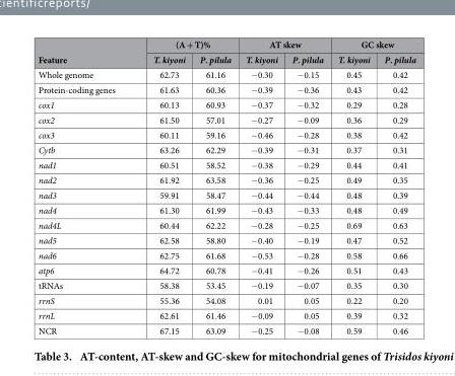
<table><thead><tr><td rowspan="2">Feature</td><td colspan="2">(A + T)%</td><td colspan="2">AT skew</td><td colspan="2">GC skew</td></tr><tr><td>T. kiyoni</td><td>P. pilula</td><td>T. kiyoni</td><td>P. pilula</td><td>T. kiyoni</td><td>P. pilula</td></tr></thead><tbody><tr><td>Whole genome</td><td>62.73</td><td>61.16</td><td>− 0.30</td><td>− 0.15</td><td>0.45</td><td>0.42</td></tr><tr><td>Protein-coding genes</td><td>61.63</td><td>60.36</td><td>− 0.39</td><td>− 0.36</td><td>0.43</td><td>0.42</td></tr><tr><td>cox1</td><td>60.13</td><td>60.93</td><td>− 0.37</td><td>− 0.32</td><td>0.29</td><td>0.28</td></tr><tr><td>cox2</td><td>61.50</td><td>57.01</td><td>− 0.27</td><td>− 0.09</td><td>0.36</td><td>0.29</td></tr><tr><td>cox3</td><td>60.11</td><td>59.16</td><td>− 0.46</td><td>− 0.28</td><td>0.38</td><td>0.42</td></tr><tr><td>Cytb</td><td>63.26</td><td>62.29</td><td>− 0.39</td><td>− 0.31</td><td>0.37</td><td>0.31</td></tr><tr><td>nad1</td><td>60.51</td><td>58.52</td><td>− 0.38</td><td>− 0.29</td><td>0.44</td><td>0.41</td></tr><tr><td>nad2</td><td>61.92</td><td>63.58</td><td>− 0.36</td><td>− 0.25</td><td>0.49</td><td>0.35</td></tr><tr><td>nad3</td><td>59.91</td><td>58.47</td><td>− 0.44</td><td>− 0.44</td><td>0.48</td><td>0.39</td></tr><tr><td>nad4</td><td>61.30</td><td>61.99</td><td>− 0.43</td><td>− 0.33</td><td>0.48</td><td>0.49</td></tr><tr><td>nad4L</td><td>60.44</td><td>62.22</td><td>− 0.28</td><td>− 0.25</td><td>0.69</td><td>0.63</td></tr><tr><td>nad5</td><td>62.58</td><td>58.80</td><td>− 0.40</td><td>− 0.19</td><td>0.47</td><td>0.52</td></tr><tr><td>nad6</td><td>62.75</td><td>61.68</td><td>− 0.53</td><td>− 0.28</td><td>0.58</td><td>0.66</td></tr><tr><td>atp6</td><td>64.72</td><td>60.78</td><td>− 0.41</td><td>− 0.26</td><td>0.51</td><td>0.43</td></tr><tr><td>tRNAs</td><td>58.38</td><td>53.45</td><td>− 0.19</td><td>− 0.07</td><td>0.35</td><td>0.30</td></tr><tr><td>rrnS</td><td>55.36</td><td>54.08</td><td>0.01</td><td>0.05</td><td>0.22</td><td>0.20</td></tr><tr><td>rrnL</td><td>62.61</td><td>61.46</td><td>− 0.09</td><td>0.05</td><td>0.39</td><td>0.32</td></tr><tr><td>NCR</td><td>67.15</td><td>63.09</td><td>− 0.25</td><td>− 0.08</td><td>0.59</td><td>0.46</td></tr></tbody></table>